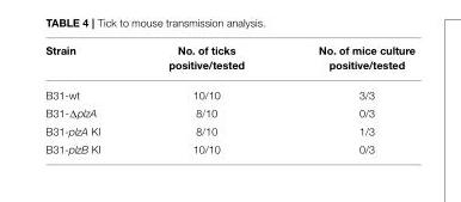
<table><thead><tr><td>Strain</td><td>No. of ticks positive/tested</td><td>No. of mice culture positive/tested</td></tr></thead><tbody><tr><td>B31-wt</td><td>10/10</td><td>3/3</td></tr><tr><td>B31-ΔplzA</td><td>8/10</td><td>0/3</td></tr><tr><td>B31-plzA KI</td><td>8/10</td><td>1/3</td></tr><tr><td>B31-plzB KI</td><td>10/10</td><td>0/3</td></tr></tbody></table>